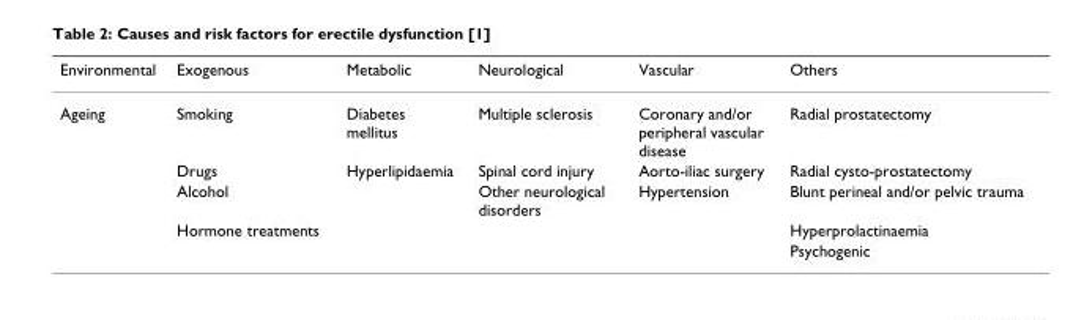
<table><thead><tr><td>Environmental</td><td>Exogenous</td><td>Metabolic</td><td>Neurological</td><td>Vascular</td><td>Others</td></tr></thead><tbody><tr><td rowspan="5">Ageing</td><td>Smoking</td><td>Diabetes mellitus</td><td>Multiple sclerosis</td><td>Coronary and/or peripheral vascular disease</td><td>Radial prostatectomy</td></tr><tr><td>Drugs</td><td>Hyperlipidaemia</td><td>Spinal cord injury</td><td>Aorto-iliac surgery</td><td>Radial cysto-prostatectomy</td></tr><tr><td>Alcohol</td><td></td><td>Other neurological disorders</td><td>Hypertension</td><td>Blunt perineal and/or pelvic trauma</td></tr><tr><td>Hormone treatments</td><td></td><td></td><td></td><td>Hyperprolactinaemia</td></tr><tr><td></td><td></td><td></td><td></td><td>Psychogenic</td></tr></tbody></table>